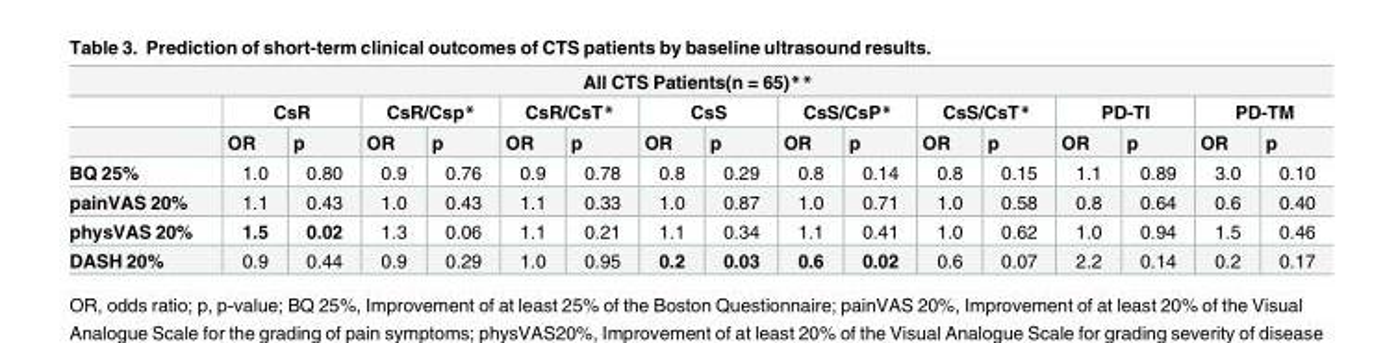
<table><thead><tr><td colspan="17">All CTS Patients(n = 65)**</td></tr><tr><td rowspan="2"></td><td colspan="2">CsR</td><td colspan="2">CsR/Csp*</td><td colspan="2">CsR/CsT*</td><td colspan="2">CsS</td><td colspan="2">CsS/CsP*</td><td colspan="2">CsS/CsT*</td><td colspan="2">PD-TI</td><td colspan="2">PD-TM</td></tr><tr><td>OR</td><td>p</td><td>OR</td><td>p</td><td>OR</td><td>p</td><td>OR</td><td>p</td><td>OR</td><td>p</td><td>OR</td><td>p</td><td>OR</td><td>p</td><td>OR</td><td>p</td></tr></thead><tbody><tr><td>BQ 25%</td><td>1.0</td><td>0.80</td><td>0.9</td><td>0.76</td><td>0.9</td><td>0.78</td><td>0.8</td><td>0.29</td><td>0.8</td><td>0.14</td><td>0.8</td><td>0.15</td><td>1.1</td><td>0.89</td><td>3.0</td><td>0.10</td></tr><tr><td>painVAS 20%</td><td>1.1</td><td>0.43</td><td>1.0</td><td>0.43</td><td>1.1</td><td>0.33</td><td>1.0</td><td>0.87</td><td>1.0</td><td>0.71</td><td>1.0</td><td>0.58</td><td>0.8</td><td>0.64</td><td>0.6</td><td>0.40</td></tr><tr><td>physVAS 20%</td><td>1.5</td><td>0.02</td><td>1.3</td><td>0.06</td><td>1.1</td><td>0.21</td><td>1.1</td><td>0.34</td><td>1.1</td><td>0.41</td><td>1.0</td><td>0.62</td><td>1.0</td><td>0.94</td><td>1.5</td><td>0.46</td></tr><tr><td>DASH 20%</td><td>0.9</td><td>0.44</td><td>0.9</td><td>0.29</td><td>1.0</td><td>0.95</td><td>0.2</td><td>0.03</td><td>0.6</td><td>0.02</td><td>0.6</td><td>0.07</td><td>2.2</td><td>0.14</td><td>0.2</td><td>0.17</td></tr></tbody></table>